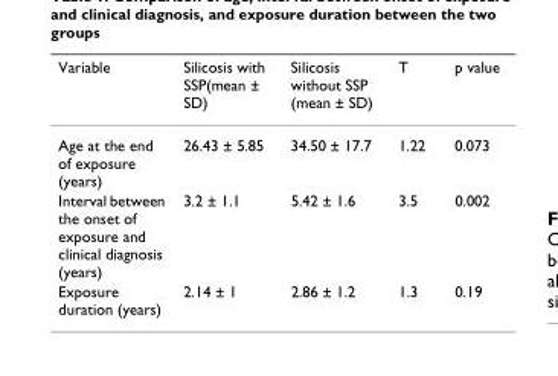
<table><thead><tr><td>Variable</td><td>Silicosis with SSP(mean ± SD)</td><td>Silicosis without SSP (mean ± SD)</td><td>T</td><td>p value</td></tr></thead><tbody><tr><td>Age at the end of exposure (years)</td><td>26.43 ± 5.85</td><td>34.50 ± 17.7</td><td>1.22</td><td>0.073</td></tr><tr><td>Interval between the onset of exposure and clinical diagnosis (years)</td><td>3.2 ± 1.1</td><td>5.42 ± 1.6</td><td>3.5</td><td>0.002</td></tr><tr><td>Exposure duration (years)</td><td>2.14 ± 1</td><td>2.86 ± 1.2</td><td>1.3</td><td>0.19</td></tr></tbody></table>